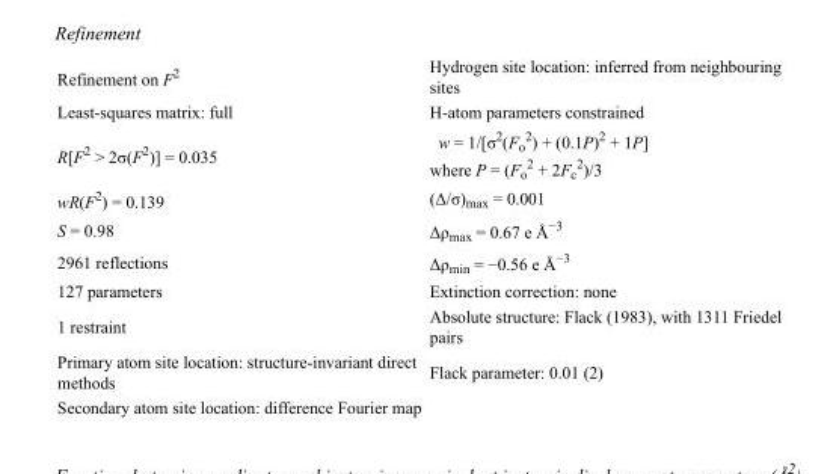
<table><tbody><tr><td>Refinement on F<sup>2</sup></td><td>Hydrogen site location: inferred from neighbouring sites</td></tr><tr><td>Least-squares matrix: full</td><td>H-atom parameters constrained</td></tr><tr><td>R[F<sup>2</sup> &gt; 2σ(F<sup>2</sup>)] = 0.035</td><td>w = 1/[σ<sup>2</sup>(F<sub>o</sub> <sup>2</sup>) + (0.1P)<sup>2</sup> + 1P] where P = (F<sub>o</sub> <sup>2</sup> + 2F<sub>c</sub> <sup>2</sup>)/3</td></tr><tr><td>wR(F<sup>2</sup>) = 0.139</td><td>(Δ/σ)<sub>max</sub> = 0.001</td></tr><tr><td>S = 0.98</td><td>Δρ<sub>max</sub> = 0.67 e Å<sup>−3</sup></td></tr><tr><td>2961 reflections</td><td>Δρ<sub>min</sub> = −0.56 e Å<sup>−3</sup></td></tr><tr><td>127 parameters</td><td>Extinction correction: none</td></tr><tr><td>1 restraint</td><td>Absolute structure: Flack (1983), with 1311 Friedel pairs</td></tr><tr><td>Primary atom site location: structure-invariant direct methods</td><td>Flack parameter: 0.01 (2)</td></tr><tr><td>Secondary atom site location: difference Fourier map</td><td></td></tr></tbody></table>